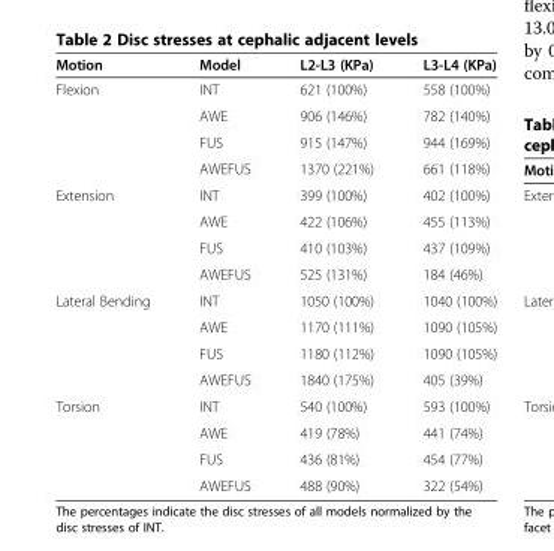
<table><thead><tr><td>Motion</td><td>Model</td><td>L2-L3 (KPa)</td><td>L3-L4 (KPa)</td></tr></thead><tbody><tr><td rowspan="4">Flexion</td><td>INT</td><td>621 (100%)</td><td>558 (100%)</td></tr><tr><td>AWE</td><td>906 (146%)</td><td>782 (140%)</td></tr><tr><td>FUS</td><td>915 (147%)</td><td>944 (169%)</td></tr><tr><td>AWEFUS</td><td>1370 (221%)</td><td>661 (118%)</td></tr><tr><td rowspan="4">Extension</td><td>INT</td><td>399 (100%)</td><td>402 (100%)</td></tr><tr><td>AWE</td><td>422 (106%)</td><td>455 (113%)</td></tr><tr><td>FUS</td><td>410 (103%)</td><td>437 (109%)</td></tr><tr><td>AWEFUS</td><td>525 (131%)</td><td>184 (46%)</td></tr><tr><td rowspan="4">Lateral Bending</td><td>INT</td><td>1050 (100%)</td><td>1040 (100%)</td></tr><tr><td>AWE</td><td>1170 (111%)</td><td>1090 (105%)</td></tr><tr><td>FUS</td><td>1180 (112%)</td><td>1090 (105%)</td></tr><tr><td>AWEFUS</td><td>1840 (175%)</td><td>405 (39%)</td></tr><tr><td rowspan="4">Torsion</td><td>INT</td><td>540 (100%)</td><td>593 (100%)</td></tr><tr><td>AWE</td><td>419 (78%)</td><td>441 (74%)</td></tr><tr><td>FUS</td><td>436 (81%)</td><td>454 (77%)</td></tr><tr><td>AWEFUS</td><td>488 (90%)</td><td>322 (54%)</td></tr></tbody></table>